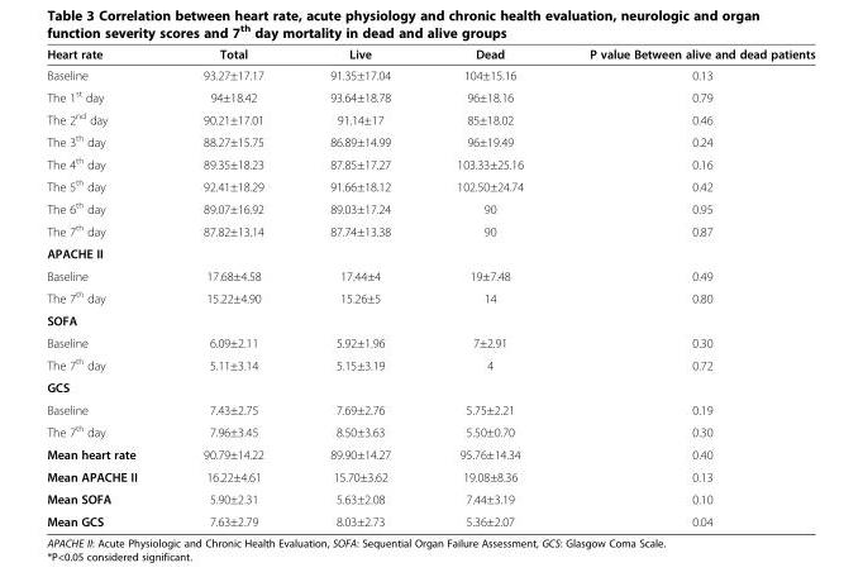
<table><thead><tr><td>Heart rate</td><td>Total</td><td>Live</td><td>Dead</td><td>P value Between alive and dead patients</td></tr></thead><tbody><tr><td>Baseline</td><td>93.27±17.17</td><td>91.35±17.04</td><td>104±15.16</td><td>0.13</td></tr><tr><td>The 1<sup>st</sup> day</td><td>94±18.42</td><td>93.64±18.78</td><td>96±18.16</td><td>0.79</td></tr><tr><td>The 2<sup>nd</sup> day</td><td>90.21±17.01</td><td>91.14±17</td><td>85±18.02</td><td>0.46</td></tr><tr><td>The 3<sup>th</sup> day</td><td>88.27±15.75</td><td>86.89±14.99</td><td>96±19.49</td><td>0.24</td></tr><tr><td>The 4<sup>th</sup> day</td><td>89.35±18.23</td><td>87.85±17.27</td><td>103.33±25.16</td><td>0.16</td></tr><tr><td>The 5<sup>th</sup> day</td><td>92.41±18.29</td><td>91.66±18.12</td><td>102.50±24.74</td><td>0.42</td></tr><tr><td>The 6<sup>th</sup> day</td><td>89.07±16.92</td><td>89.03±17.24</td><td>90</td><td>0.95</td></tr><tr><td>The 7<sup>th</sup> day</td><td>87.82±13.14</td><td>87.74±13.38</td><td>90</td><td>0.87</td></tr><tr><td colspan="5">APACHE II</td></tr><tr><td>Baseline</td><td>17.68±4.58</td><td>17.44±4</td><td>19±7.48</td><td>0.49</td></tr><tr><td>The 7<sup>th</sup> day</td><td>15.22±4.90</td><td>15.26±5</td><td>14</td><td>0.80</td></tr><tr><td colspan="5">SOFA</td></tr><tr><td>Baseline</td><td>6.09±2.11</td><td>5.92±1.96</td><td>7±2.91</td><td>0.30</td></tr><tr><td>The 7<sup>th</sup> day</td><td>5.11±3.14</td><td>5.15±3.19</td><td>4</td><td>0.72</td></tr><tr><td colspan="5">GCS</td></tr><tr><td>Baseline</td><td>7.43±2.75</td><td>7.69±2.76</td><td>5.75±2.21</td><td>0.19</td></tr><tr><td>The 7<sup>th</sup> day</td><td>7.96±3.45</td><td>8.50±3.63</td><td>5.50±0.70</td><td>0.30</td></tr><tr><td>Mean heart rate</td><td>90.79±14.22</td><td>89.90±14.27</td><td>95.76±14.34</td><td>0.40</td></tr><tr><td>Mean APACHE II</td><td>16.22±4.61</td><td>15.70±3.62</td><td>19.08±8.36</td><td>0.13</td></tr><tr><td>Mean SOFA</td><td>5.90±2.31</td><td>5.63±2.08</td><td>7.44±3.19</td><td>0.10</td></tr><tr><td>Mean GCS</td><td>7.63±2.79</td><td>8.03±2.73</td><td>5.36±2.07</td><td>0.04</td></tr></tbody></table>